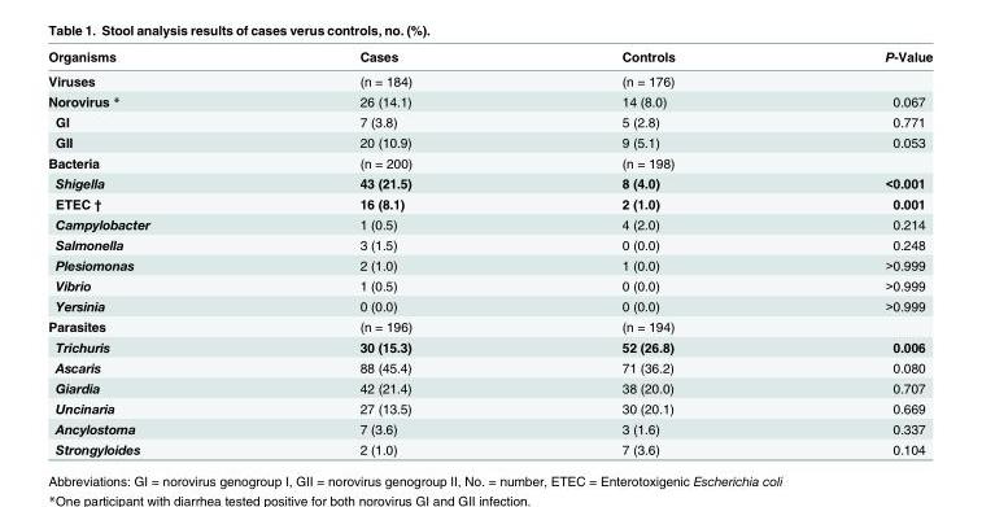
<table><thead><tr><td>Organisms</td><td>Cases</td><td>Controls</td><td>P-Value</td></tr></thead><tbody><tr><td>Viruses</td><td>(n = 184)</td><td>(n = 176)</td><td></td></tr><tr><td>Norovirus *</td><td>26 (14.1)</td><td>14 (8.0)</td><td>0.067</td></tr><tr><td>GI</td><td>7 (3.8)</td><td>5 (2.8)</td><td>0.771</td></tr><tr><td>GII</td><td>20 (10.9)</td><td>9 (5.1)</td><td>0.053</td></tr><tr><td>Bacteria</td><td>(n = 200)</td><td>(n = 198)</td><td></td></tr><tr><td>Shigella</td><td>43 (21.5)</td><td>8 (4.0)</td><td>&lt;0.001</td></tr><tr><td>ETEC †</td><td>16 (8.1)</td><td>2 (1.0)</td><td>0.001</td></tr><tr><td>Campylobacter</td><td>1 (0.5)</td><td>4 (2.0)</td><td>0.214</td></tr><tr><td>Salmonella</td><td>3 (1.5)</td><td>0 (0.0)</td><td>0.248</td></tr><tr><td>Plesiomonas</td><td>2 (1.0)</td><td>1 (0.0)</td><td>&gt;0.999</td></tr><tr><td>Vibrio</td><td>1 (0.5)</td><td>0 (0.0)</td><td>&gt;0.999</td></tr><tr><td>Yersinia</td><td>0 (0.0)</td><td>0 (0.0)</td><td>&gt;0.999</td></tr><tr><td>Parasites</td><td>(n = 196)</td><td>(n = 194)</td><td></td></tr><tr><td>Trichuris</td><td>30 (15.3)</td><td>52 (26.8)</td><td>0.006</td></tr><tr><td>Ascaris</td><td>88 (45.4)</td><td>71 (36.2)</td><td>0.080</td></tr><tr><td>Giardia</td><td>42 (21.4)</td><td>38 (20.0)</td><td>0.707</td></tr><tr><td>Uncinaria</td><td>27 (13.5)</td><td>30 (20.1)</td><td>0.669</td></tr><tr><td>Ancylostoma</td><td>7 (3.6)</td><td>3 (1.6)</td><td>0.337</td></tr><tr><td>Strongyloides</td><td>2 (1.0)</td><td>7 (3.6)</td><td>0.104</td></tr></tbody></table>